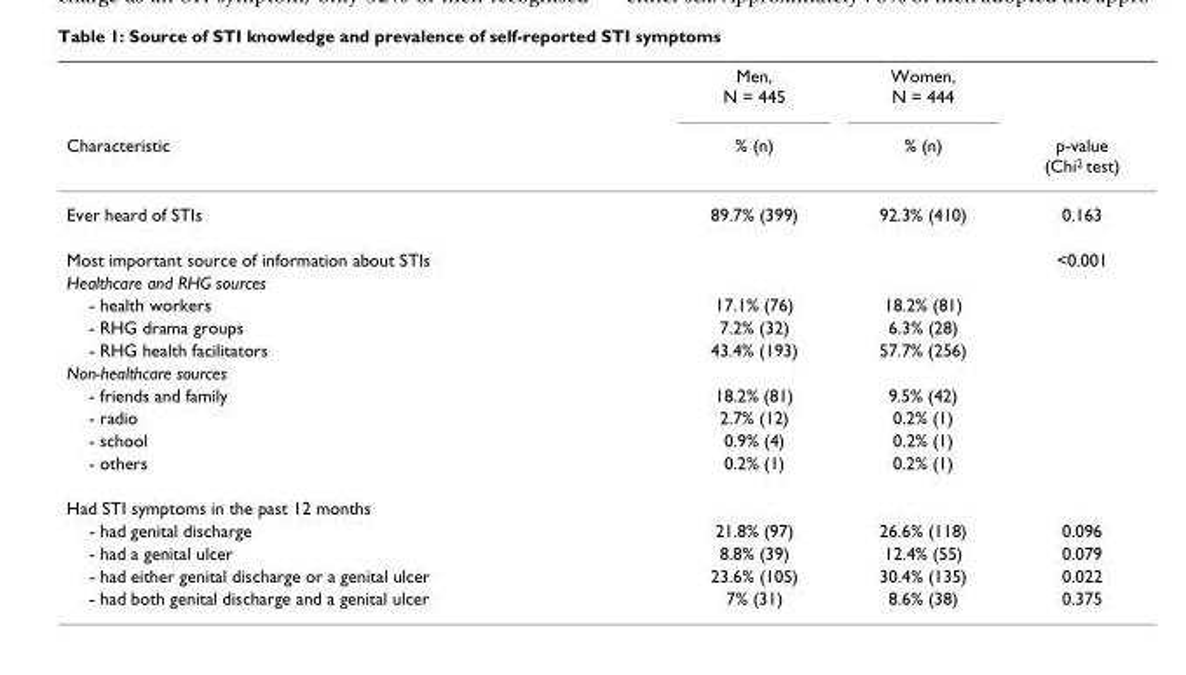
<table><thead><tr><td rowspan="2">Characteristic</td><td rowspan="2">Men, N = 445 % (n)</td><td rowspan="2">Women, N = 444 % (n)</td><td rowspan="2">p-value (Chi<sup>2</sup> test)</td></tr><tr></tr></thead><tbody><tr><td>Ever heard of STIs</td><td>89.7% (399)</td><td>92.3% (410)</td><td>0.163</td></tr><tr><td>Most important source of information about STIs</td><td></td><td></td><td>&lt;0.001</td></tr><tr><td colspan="4">Healthcare and RHG sources</td></tr><tr><td>- health workers</td><td>17.1% (76)</td><td>18.2% (81)</td><td></td></tr><tr><td>- RHG drama groups</td><td>7.2% (32)</td><td>6.3% (28)</td><td></td></tr><tr><td>- RHG health facilitators</td><td>43.4% (193)</td><td>57.7% (256)</td><td></td></tr><tr><td colspan="4">Non-healthcare sources</td></tr><tr><td>- friends and family</td><td>18.2% (81)</td><td>9.5% (42)</td><td></td></tr><tr><td>- radio</td><td>2.7% (12)</td><td>0.2% (1)</td><td></td></tr><tr><td>- school</td><td>0.9% (4)</td><td>0.2% (1)</td><td></td></tr><tr><td>- others</td><td>0.2% (1)</td><td>0.2% (1)</td><td></td></tr><tr><td colspan="4">Had STI symptoms in the past 12 months</td></tr><tr><td>- had genital discharge</td><td>21.8% (97)</td><td>26.6% (118)</td><td>0.096</td></tr><tr><td>- had a genital ulcer</td><td>8.8% (39)</td><td>12.4% (55)</td><td>0.079</td></tr><tr><td>- had either genital discharge or a genital ulcer</td><td>23.6% (105)</td><td>30.4% (135)</td><td>0.022</td></tr><tr><td>- had both genital discharge and a genital ulcer</td><td>7% (31)</td><td>8.6% (38)</td><td>0.375</td></tr></tbody></table>